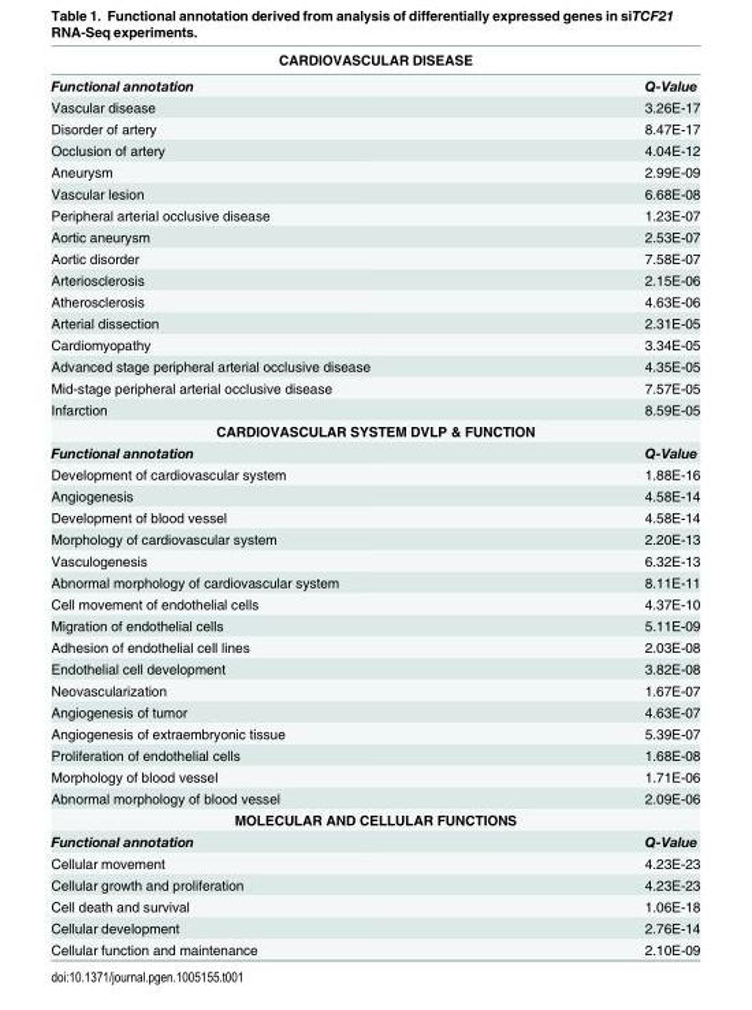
<table><thead><tr><td colspan="2">CARDIOVASCULAR DISEASE</td></tr><tr><td>Functional annotation</td><td>Q-Value</td></tr></thead><tbody><tr><td>Vascular disease</td><td>3.26E-17</td></tr><tr><td>Disorder of artery</td><td>8.47E-17</td></tr><tr><td>Occlusion of artery</td><td>4.04E-12</td></tr><tr><td>Aneurysm</td><td>2.99E-09</td></tr><tr><td>Vascular lesion</td><td>6.68E-08</td></tr><tr><td>Peripheral arterial occlusive disease</td><td>1.23E-07</td></tr><tr><td>Aortic aneurysm</td><td>2.53E-07</td></tr><tr><td>Aortic disorder</td><td>7.58E-07</td></tr><tr><td>Arteriosclerosis</td><td>2.15E-06</td></tr><tr><td>Atherosclerosis</td><td>4.63E-06</td></tr><tr><td>Arterial dissection</td><td>2.31E-05</td></tr><tr><td>Cardiomyopathy</td><td>3.34E-05</td></tr><tr><td>Advanced stage peripheral arterial occlusive disease</td><td>4.35E-05</td></tr><tr><td>Mid-stage peripheral arterial occlusive disease</td><td>7.57E-05</td></tr><tr><td>Infarction</td><td>8.59E-05</td></tr><tr><td colspan="2">CARDIOVASCULAR SYSTEM DVLP &amp; FUNCTION</td></tr><tr><td>Functional annotation</td><td>Q-Value</td></tr><tr><td>Development of cardiovascular system</td><td>1.88E-16</td></tr><tr><td>Angiogenesis</td><td>4.58E-14</td></tr><tr><td>Development of blood vessel</td><td>4.58E-14</td></tr><tr><td>Morphology of cardiovascular system</td><td>2.20E-13</td></tr><tr><td>Vasculogenesis</td><td>6.32E-13</td></tr><tr><td>Abnormal morphology of cardiovascular system</td><td>8.11E-11</td></tr><tr><td>Cell movement of endothelial cells</td><td>4.37E-10</td></tr><tr><td>Migration of endothelial cells</td><td>5.11E-09</td></tr><tr><td>Adhesion of endothelial cell lines</td><td>2.03E-08</td></tr><tr><td>Endothelial cell development</td><td>3.82E-08</td></tr><tr><td>Neovascularization</td><td>1.67E-07</td></tr><tr><td>Angiogenesis of tumor</td><td>4.63E-07</td></tr><tr><td>Angiogenesis of extraembryonic tissue</td><td>5.39E-07</td></tr><tr><td>Proliferation of endothelial cells</td><td>1.68E-08</td></tr><tr><td>Morphology of blood vessel</td><td>1.71E-06</td></tr><tr><td>Abnormal morphology of blood vessel</td><td>2.09E-06</td></tr><tr><td colspan="2">MOLECULAR AND CELLULAR FUNCTIONS</td></tr><tr><td>Functional annotation</td><td>Q-Value</td></tr><tr><td>Cellular movement</td><td>4.23E-23</td></tr><tr><td>Cellular growth and proliferation</td><td>4.23E-23</td></tr><tr><td>Cell death and survival</td><td>1.06E-18</td></tr><tr><td>Cellular development</td><td>2.76E-14</td></tr><tr><td>Cellular function and maintenance</td><td>2.10E-09</td></tr></tbody></table>